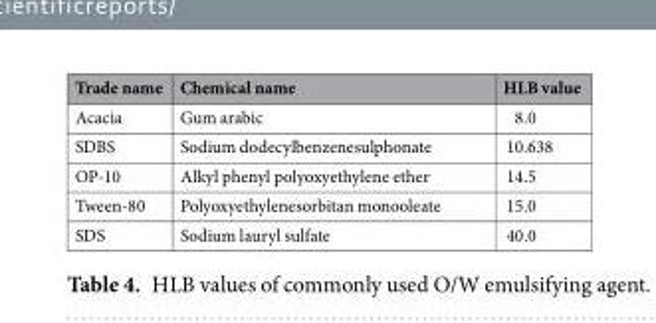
<table><thead><tr><td>Trade name</td><td>Chemical name</td><td>HLB value</td></tr></thead><tbody><tr><td>Acacia</td><td>Gum arabic</td><td>8.0</td></tr><tr><td>SDBS</td><td>Sodium dodecylbenzenesulphonate</td><td>10.638</td></tr><tr><td>OP-10</td><td>Alkyl phenyl polyoxyethylene ether</td><td>14.5</td></tr><tr><td>Tween-80</td><td>Polyoxyethylenesorbitan monooleate</td><td>15.0</td></tr><tr><td>SDS</td><td>Sodium lauryl sulfate</td><td>40.0</td></tr></tbody></table>